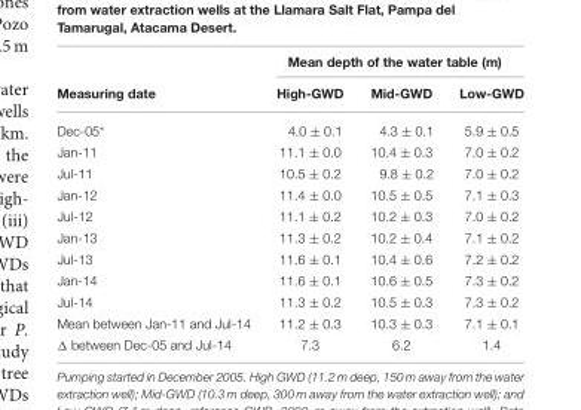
<table><thead><tr><td rowspan="2">Measuring date</td><td colspan="3">Mean depth of the water table (m)</td></tr><tr><td>High-GWD</td><td>Mid-GWD</td><td>Low-GWD</td></tr></thead><tbody><tr><td>Dec-05*</td><td>4.0 ± 0.1</td><td>4.3 ± 0.1</td><td>5.9 ± 0.5</td></tr><tr><td>Jan-11</td><td>11.1 ± 0.0</td><td>10.4 ± 0.3</td><td>7.0 ± 0.2</td></tr><tr><td>Jul-11</td><td>10.5 ± 0.2</td><td>9.8 ± 0.2</td><td>7.0 ± 0.2</td></tr><tr><td>Jan-12</td><td>11.4 ± 0.0</td><td>10.5 ± 0.5</td><td>7.1 ± 0.3</td></tr><tr><td>Jul-12</td><td>11.1 ± 0.2</td><td>10.2 ± 0.3</td><td>7.0 ± 0.2</td></tr><tr><td>Jan-13</td><td>11.3 ± 0.2</td><td>10.2 ± 0.4</td><td>7.1 ± 0.2</td></tr><tr><td>Jul-13</td><td>11.6 ± 0.1</td><td>10.4 ± 0.6</td><td>7.2 ± 0.2</td></tr><tr><td>Jan-14</td><td>11.6 ± 0.1</td><td>10.6 ± 0.5</td><td>7.3 ± 0.2</td></tr><tr><td>Jul-14</td><td>11.3 ± 0.2</td><td>10.5 ± 0.3</td><td>7.3 ± 0.2</td></tr><tr><td>Mean between Jan-11 and Jul-14</td><td>11.2 ± 0.3</td><td>10.3 ± 0.3</td><td>7.1 ± 0.1</td></tr><tr><td>Δ between Dec-05 and Jul-14</td><td>7.3</td><td>6.2</td><td>1.4</td></tr></tbody></table>